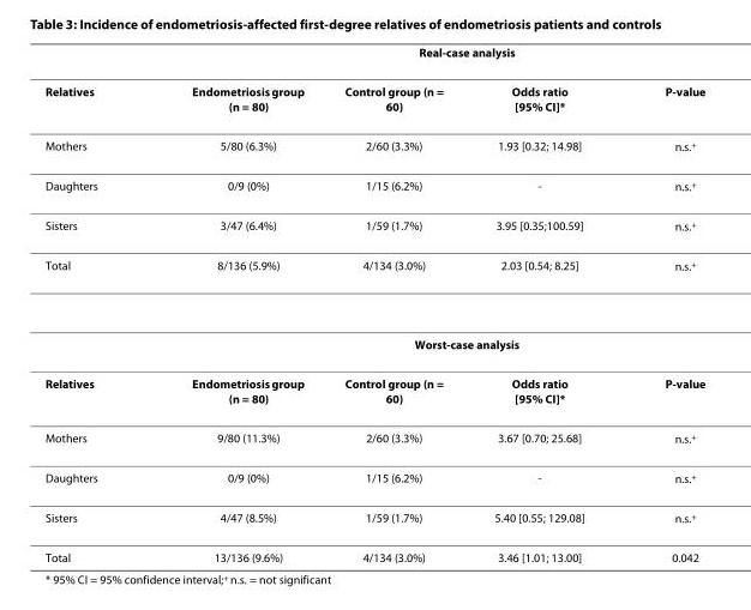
<table><thead><tr><td rowspan="2">Relatives</td><td colspan="4">Real-case analysis</td></tr><tr><td>Endometriosis group (n = 80)</td><td>Control group (n = 60)</td><td>Odds ratio [95% CI]*</td><td>P-value</td></tr></thead><tbody><tr><td>Mothers</td><td>5/80 (6.3%)</td><td>2/60 (3.3%)</td><td>1.93 [0.32; 14.98]</td><td>n.s.+</td></tr><tr><td>Daughters</td><td>0/9 (0%)</td><td>1/15 (6.2%)</td><td>-</td><td>n.s.+</td></tr><tr><td>Sisters</td><td>3/47 (6.4%)</td><td>1/59 (1.7%)</td><td>3.95 [0.35;100.59]</td><td>n.s.+</td></tr><tr><td rowspan="2">Total</td><td>8/136 (5.9%)</td><td>4/134 (3.0%)</td><td>2.03 [0.54; 8.25]</td><td>n.s.+</td></tr><tr><td colspan="4">Worst-case analysis</td></tr><tr><td>Relatives</td><td>Endometriosis group (n = 80)</td><td>Control group (n = 60)</td><td>Odds ratio [95% CI]*</td><td>P-value</td></tr><tr><td>Mothers</td><td>9/80 (11.3%)</td><td>2/60 (3.3%)</td><td>3.67 [0.70; 25.68]</td><td>n.s.+</td></tr><tr><td>Daughters</td><td>0/9 (0%)</td><td>1/15 (6.2%)</td><td>-</td><td>n.s.+</td></tr><tr><td>Sisters</td><td>4/47 (8.5%)</td><td>1/59 (1.7%)</td><td>5.40 [0.55; 129.08]</td><td>n.s.+</td></tr><tr><td>Total</td><td>13/136 (9.6%)</td><td>4/134 (3.0%)</td><td>3.46 [1.01; 13.00]</td><td>0.042</td></tr></tbody></table>